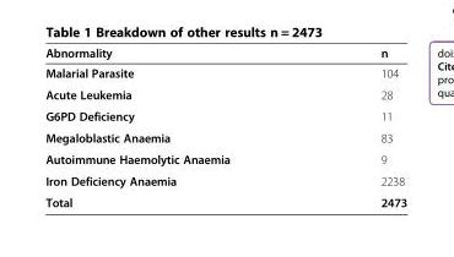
<table><thead><tr><td>Abnormality</td><td>n</td></tr></thead><tbody><tr><td>Malarial Parasite</td><td>104</td></tr><tr><td>Acute Leukemia</td><td>28</td></tr><tr><td>G6PD Deficiency</td><td>11</td></tr><tr><td>Megaloblastic Anaemia</td><td>83</td></tr><tr><td>Autoimmune Haemolytic Anaemia</td><td>9</td></tr><tr><td>Iron Deficiency Anaemia</td><td>2238</td></tr><tr><td>Total</td><td>2473</td></tr></tbody></table>